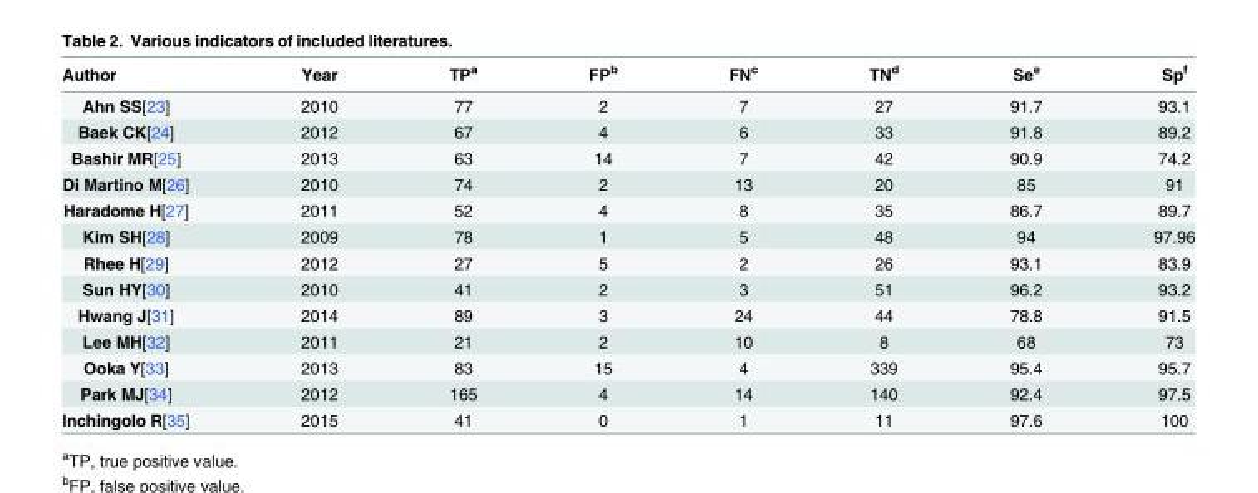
<table><thead><tr><td>Author</td><td>Year</td><td>TP<sup>a</sup></td><td>FP<sup>b</sup></td><td>FN<sup>c</sup></td><td>TN<sup>d</sup></td><td>Se<sup>e</sup></td><td>Sp<sup>f</sup></td></tr></thead><tbody><tr><td>Ahn SS[23]</td><td>2010</td><td>77</td><td>2</td><td>7</td><td>27</td><td>91.7</td><td>93.1</td></tr><tr><td>Baek CK[24]</td><td>2012</td><td>67</td><td>4</td><td>6</td><td>33</td><td>91.8</td><td>89.2</td></tr><tr><td>Bashir MR[25]</td><td>2013</td><td>63</td><td>14</td><td>7</td><td>42</td><td>90.9</td><td>74.2</td></tr><tr><td>Di Martino M[26]</td><td>2010</td><td>74</td><td>2</td><td>13</td><td>20</td><td>85</td><td>91</td></tr><tr><td>Haradome H[27]</td><td>2011</td><td>52</td><td>4</td><td>8</td><td>35</td><td>86.7</td><td>89.7</td></tr><tr><td>Kim SH[28]</td><td>2009</td><td>78</td><td>1</td><td>5</td><td>48</td><td>94</td><td>97.96</td></tr><tr><td>Rhee H[29]</td><td>2012</td><td>27</td><td>5</td><td>2</td><td>26</td><td>93.1</td><td>83.9</td></tr><tr><td>Sun HY[30]</td><td>2010</td><td>41</td><td>2</td><td>3</td><td>51</td><td>96.2</td><td>93.2</td></tr><tr><td>Hwang J[31]</td><td>2014</td><td>89</td><td>3</td><td>24</td><td>44</td><td>78.8</td><td>91.5</td></tr><tr><td>Lee MH[32]</td><td>2011</td><td>21</td><td>2</td><td>10</td><td>8</td><td>68</td><td>73</td></tr><tr><td>Ooka Y[33]</td><td>2013</td><td>83</td><td>15</td><td>4</td><td>339</td><td>95.4</td><td>95.7</td></tr><tr><td>Park MJ[34]</td><td>2012</td><td>165</td><td>4</td><td>14</td><td>140</td><td>92.4</td><td>97.5</td></tr><tr><td>Inchingolo R[35]</td><td>2015</td><td>41</td><td>0</td><td>1</td><td>11</td><td>97.6</td><td>100</td></tr></tbody></table>